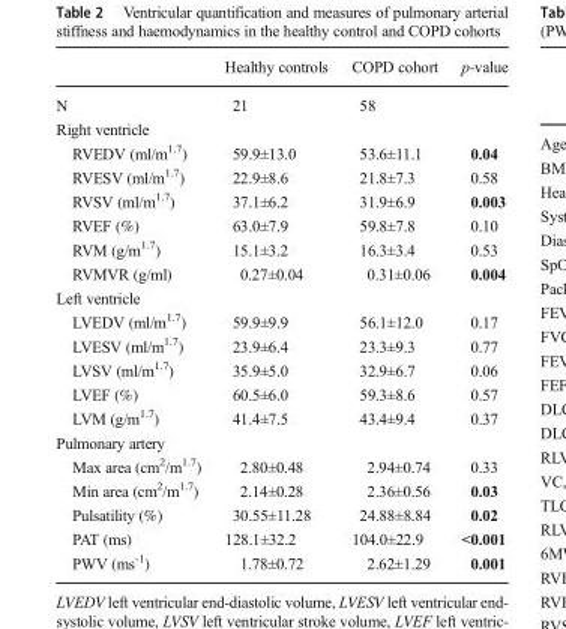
<table><thead><tr><td></td><td>Healthy controls</td><td>COPD cohort</td><td>p-value</td></tr></thead><tbody><tr><td>N</td><td>21</td><td>58</td><td></td></tr><tr><td colspan="4">Right ventricle</td></tr><tr><td>RVEDV (ml/m<sup>1.7</sup>)</td><td>59.9±13.0</td><td>53.6±11.1</td><td>0.04</td></tr><tr><td>RVESV (ml/m<sup>1.7</sup>)</td><td>22.9±8.6</td><td>21.8±7.3</td><td>0.58</td></tr><tr><td>RVSV (ml/m<sup>1.7</sup>)</td><td>37.1±6.2</td><td>31.9±6.9</td><td>0.003</td></tr><tr><td>RVEF (%)</td><td>63.0±7.9</td><td>59.8±7.8</td><td>0.10</td></tr><tr><td>RVM (g/m<sup>1.7</sup>)</td><td>15.1±3.2</td><td>16.3±3.4</td><td>0.53</td></tr><tr><td>RVMVR (g/ml)</td><td>0.27±0.04</td><td>0.31±0.06</td><td>0.004</td></tr><tr><td colspan="4">Left ventricle</td></tr><tr><td>LVEDV (ml/m<sup>1.7</sup>)</td><td>59.9±9.9</td><td>56.1±12.0</td><td>0.17</td></tr><tr><td>LVESV (ml/m<sup>1.7</sup>)</td><td>23.9±6.4</td><td>23.3±9.3</td><td>0.77</td></tr><tr><td>LVSV (ml/m<sup>1.7</sup>)</td><td>35.9±5.0</td><td>32.9±6.7</td><td>0.06</td></tr><tr><td>LVEF (%)</td><td>60.5±6.0</td><td>59.3±8.6</td><td>0.57</td></tr><tr><td>LVM (g/m<sup>1.7</sup>)</td><td>41.4±7.5</td><td>43.4±9.4</td><td>0.37</td></tr><tr><td colspan="4">Pulmonary artery</td></tr><tr><td>Max area (cm<sup>2</sup>/m<sup>1.7</sup>)</td><td>2.80±0.48</td><td>2.94±0.74</td><td>0.33</td></tr><tr><td>Min area (cm<sup>2</sup>/m<sup>1.7</sup>)</td><td>2.14±0.28</td><td>2.36±0.56</td><td>0.03</td></tr><tr><td>Pulsatility (%)</td><td>30.55±11.28</td><td>24.88±8.84</td><td>0.02</td></tr><tr><td>PAT (ms)</td><td>128.1±32.2</td><td>104.0±22.9</td><td>&lt;0.001</td></tr><tr><td>PWV (ms<sup>-1</sup>)</td><td>1.78±0.72</td><td>2.62±1.29</td><td>0.001</td></tr></tbody></table>